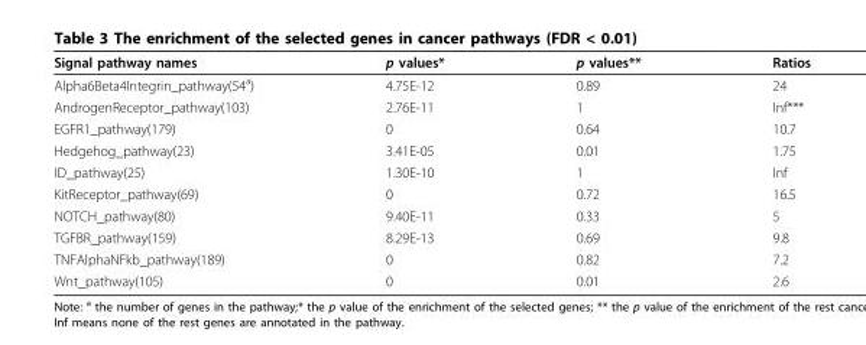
<table><thead><tr><td>Signal pathway names</td><td>p values*</td><td>p values**</td><td>Ratios</td></tr></thead><tbody><tr><td>Alpha6Beta4Integrin_pathway(54<sup>a</sup>)</td><td>4.75E-12</td><td>0.89</td><td>24</td></tr><tr><td>AndrogenReceptor_pathway(103)</td><td>2.76E-11</td><td>1</td><td>Inf***</td></tr><tr><td>EGFR1_pathway(179)</td><td>0</td><td>0.64</td><td>10.7</td></tr><tr><td>Hedgehog_pathway(23)</td><td>3.41E-05</td><td>0.01</td><td>1.75</td></tr><tr><td>ID_pathway(25)</td><td>1.30E-10</td><td>1</td><td>Inf</td></tr><tr><td>KitReceptor_pathway(69)</td><td>0</td><td>0.72</td><td>16.5</td></tr><tr><td>NOTCH_pathway(80)</td><td>9.40E-11</td><td>0.33</td><td>5</td></tr><tr><td>TGFBR_pathway(159)</td><td>8.29E-13</td><td>0.69</td><td>9.8</td></tr><tr><td>TNFAlphaNFkb_pathway(189)</td><td>0</td><td>0.82</td><td>7.2</td></tr><tr><td>Wnt_pathway(105)</td><td>0</td><td>0.01</td><td>2.6</td></tr></tbody></table>